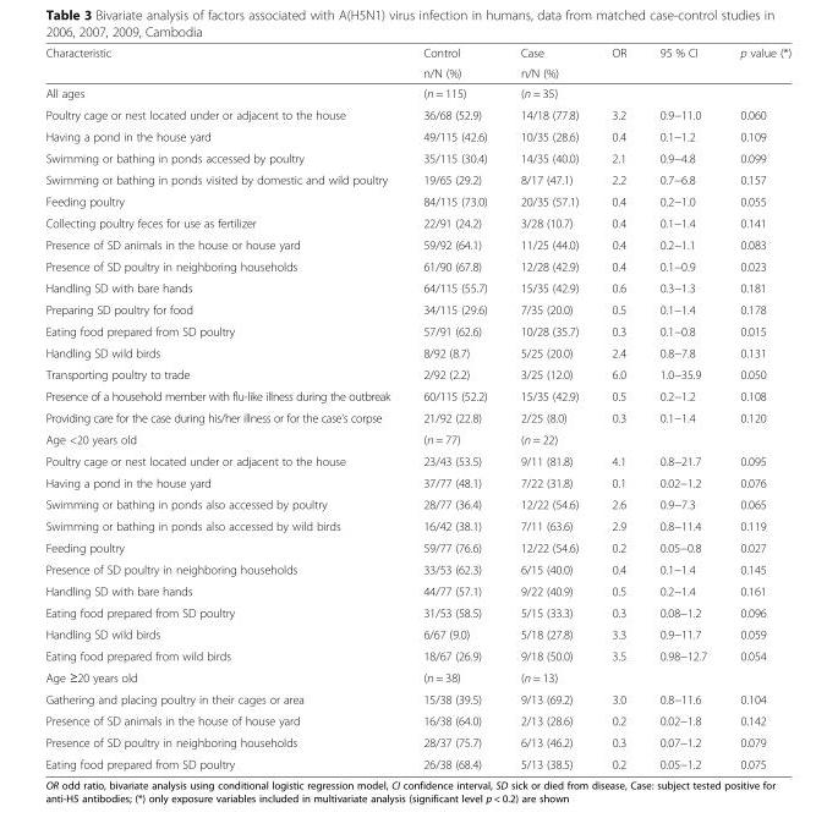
<table><thead><tr><td rowspan="2">Characteristic</td><td rowspan="2">Control n/N (%)</td><td rowspan="2">Case n/N (%)</td><td rowspan="2">OR</td><td rowspan="2">95 % CI</td><td rowspan="2">p value (*)</td></tr><tr></tr></thead><tbody><tr><td>All ages</td><td>(n = 115)</td><td>(n = 35)</td><td></td><td></td><td></td></tr><tr><td>Poultry cage or nest located under or adjacent to the house</td><td>36/68 (52.9)</td><td>14/18 (77.8)</td><td>3.2</td><td>0.9−11.0</td><td>0.060</td></tr><tr><td>Having a pond in the house yard</td><td>49/115 (42.6)</td><td>10/35 (28.6)</td><td>0.4</td><td>0.1−1.2</td><td>0.109</td></tr><tr><td>Swimming or bathing in ponds accessed by poultry</td><td>35/115 (30.4)</td><td>14/35 (40.0)</td><td>2.1</td><td>0.9−4.8</td><td>0.099</td></tr><tr><td>Swimming or bathing in ponds visited by domestic and wild poultry</td><td>19/65 (29.2)</td><td>8/17 (47.1)</td><td>2.2</td><td>0.7−6.8</td><td>0.157</td></tr><tr><td>Feeding poultry</td><td>84/115 (73.0)</td><td>20/35 (57.1)</td><td>0.4</td><td>0.2−1.0</td><td>0.055</td></tr><tr><td>Collecting poultry feces for use as fertilizer</td><td>22/91 (24.2)</td><td>3/28 (10.7)</td><td>0.4</td><td>0.1−1.4</td><td>0.141</td></tr><tr><td>Presence of SD animals in the house or house yard</td><td>59/92 (64.1)</td><td>11/25 (44.0)</td><td>0.4</td><td>0.2−1.1</td><td>0.083</td></tr><tr><td>Presence of SD poultry in neighboring households</td><td>61/90 (67.8)</td><td>12/28 (42.9)</td><td>0.4</td><td>0.1−0.9</td><td>0.023</td></tr><tr><td>Handling SD with bare hands</td><td>64/115 (55.7)</td><td>15/35 (42.9)</td><td>0.6</td><td>0.3−1.3</td><td>0.181</td></tr><tr><td>Preparing SD poultry for food</td><td>34/115 (29.6)</td><td>7/35 (20.0)</td><td>0.5</td><td>0.1−1.4</td><td>0.178</td></tr><tr><td>Eating food prepared from SD poultry</td><td>57/91 (62.6)</td><td>10/28 (35.7)</td><td>0.3</td><td>0.1−0.8</td><td>0.015</td></tr><tr><td>Handling SD wild birds</td><td>8/92 (8.7)</td><td>5/25 (20.0)</td><td>2.4</td><td>0.8−7.8</td><td>0.131</td></tr><tr><td>Transporting poultry to trade</td><td>2/92 (2.2)</td><td>3/25 (12.0)</td><td>6.0</td><td>1.0−35.9</td><td>0.050</td></tr><tr><td>Presence of a household member with flu-like illness during the outbreak</td><td>60/115 (52.2)</td><td>15/35 (42.9)</td><td>0.5</td><td>0.2−1.2</td><td>0.108</td></tr><tr><td>Providing care for the case during his/her illness or for the case&#x27;s corpse</td><td>21/92 (22.8)</td><td>2/25 (8.0)</td><td>0.3</td><td>0.1−1.4</td><td>0.120</td></tr><tr><td>Age &lt;20 years old</td><td>(n = 77)</td><td>(n = 22)</td><td></td><td></td><td></td></tr><tr><td>Poultry cage or nest located under or adjacent to the house</td><td>23/43 (53.5)</td><td>9/11 (81.8)</td><td>4.1</td><td>0.8−21.7</td><td>0.095</td></tr><tr><td>Having a pond in the house yard</td><td>37/77 (48.1)</td><td>7/22 (31.8)</td><td>0.1</td><td>0.02−1.2</td><td>0.076</td></tr><tr><td>Swimming or bathing in ponds also accessed by poultry</td><td>28/77 (36.4)</td><td>12/22 (54.6)</td><td>2.6</td><td>0.9−7.3</td><td>0.065</td></tr><tr><td>Swimming or bathing in ponds also accessed by wild birds</td><td>16/42 (38.1)</td><td>7/11 (63.6)</td><td>2.9</td><td>0.8−11.4</td><td>0.119</td></tr><tr><td>Feeding poultry</td><td>59/77 (76.6)</td><td>12/22 (54.6)</td><td>0.2</td><td>0.05−0.8</td><td>0.027</td></tr><tr><td>Presence of SD poultry in neighboring households</td><td>33/53 (62.3)</td><td>6/15 (40.0)</td><td>0.4</td><td>0.1−1.4</td><td>0.145</td></tr><tr><td>Handling SD with bare hands</td><td>44/77 (57.1)</td><td>9/22 (40.9)</td><td>0.5</td><td>0.2−1.4</td><td>0.161</td></tr><tr><td>Eating food prepared from SD poultry</td><td>31/53 (58.5)</td><td>5/15 (33.3)</td><td>0.3</td><td>0.08−1.2</td><td>0.096</td></tr><tr><td>Handling SD wild birds</td><td>6/67 (9.0)</td><td>5/18 (27.8)</td><td>3.3</td><td>0.9−11.7</td><td>0.059</td></tr><tr><td>Eating food prepared from wild birds</td><td>18/67 (26.9)</td><td>9/18 (50.0)</td><td>3.5</td><td>0.98−12.7</td><td>0.054</td></tr><tr><td>Age ≥20 years old</td><td>(n = 38)</td><td>(n = 13)</td><td></td><td></td><td></td></tr><tr><td>Gathering and placing poultry in their cages or area</td><td>15/38 (39.5)</td><td>9/13 (69.2)</td><td>3.0</td><td>0.8−11.6</td><td>0.104</td></tr><tr><td>Presence of SD animals in the house of house yard</td><td>16/38 (64.0)</td><td>2/13 (28.6)</td><td>0.2</td><td>0.02−1.8</td><td>0.142</td></tr><tr><td>Presence of SD poultry in neighboring households</td><td>28/37 (75.7)</td><td>6/13 (46.2)</td><td>0.3</td><td>0.07−1.2</td><td>0.079</td></tr><tr><td>Eating food prepared from SD poultry</td><td>26/38 (68.4)</td><td>5/13 (38.5)</td><td>0.2</td><td>0.05−1.2</td><td>0.075</td></tr></tbody></table>